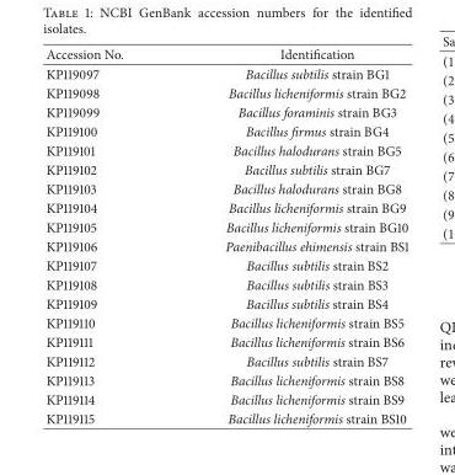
<table><thead><tr><td>Accession No.</td><td>Identification</td></tr></thead><tbody><tr><td>KP119097</td><td>Bacillus subtilis strain BG1</td></tr><tr><td>KP119098</td><td>Bacillus licheniformis strain BG2</td></tr><tr><td>KP119099</td><td>Bacillus foraminis strain BG3</td></tr><tr><td>KP119100</td><td>Bacillus firmus strain BG4</td></tr><tr><td>KP119101</td><td>Bacillus halodurans strain BG5</td></tr><tr><td>KP119102</td><td>Bacillus subtilis strain BG7</td></tr><tr><td>KP119103</td><td>Bacillus halodurans strain BG8</td></tr><tr><td>KP119104</td><td>Bacillus licheniformis strain BG9</td></tr><tr><td>KP119105</td><td>Bacillus licheniformis strain BG10</td></tr><tr><td>KP119106</td><td>Paenibacillus ehimensis strain BS1</td></tr><tr><td>KP119107</td><td>Bacillus subtilis strain BS2</td></tr><tr><td>KP119108</td><td>Bacillus subtilis strain BS3</td></tr><tr><td>KP119109</td><td>Bacillus subtilis strain BS4</td></tr><tr><td>KP119110</td><td>Bacillus licheniformis strain BS5</td></tr><tr><td>KP119111</td><td>Bacillus licheniformis strain BS6</td></tr><tr><td>KP119112</td><td>Bacillus subtilis strain BS7</td></tr><tr><td>KP119113</td><td>Bacillus licheniformis strain BS8</td></tr><tr><td>KP119114</td><td>Bacillus licheniformis strain BS9</td></tr><tr><td>KP119115</td><td>Bacillus licheniformis strain BS10</td></tr></tbody></table>